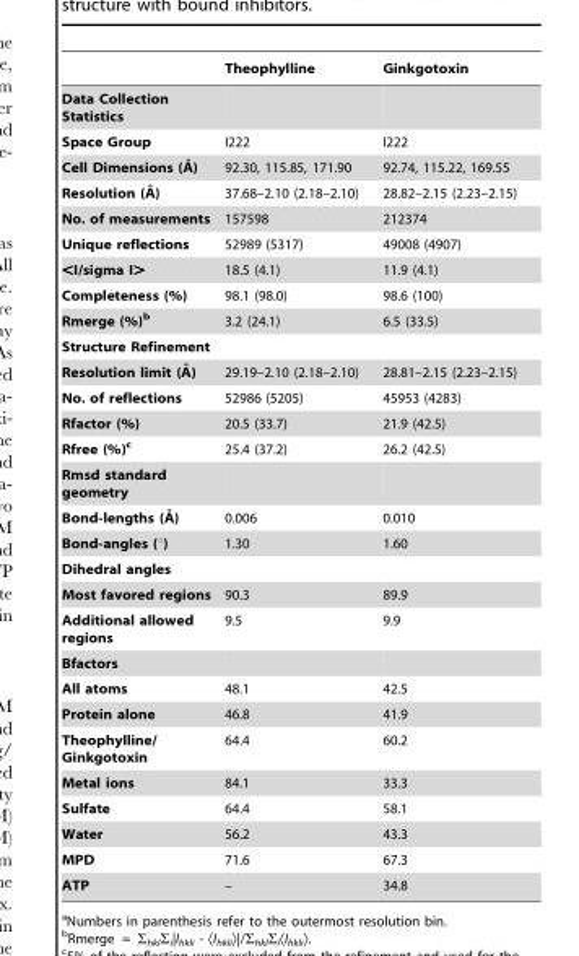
<table><thead><tr><td></td><td>Theophylline</td><td>Ginkgotoxin</td></tr></thead><tbody><tr><td colspan="3">Data Collection Statistics</td></tr><tr><td>Space Group</td><td>I222</td><td>I222</td></tr><tr><td>Cell Dimensions (A˚ )</td><td>92.30, 115.85, 171.90</td><td>92.74, 115.22, 169.55</td></tr><tr><td>Resolution (A˚ )</td><td>37.68–2.10 (2.18–2.10)</td><td>28.82–2.15 (2.23–2.15)</td></tr><tr><td>No. of measurements</td><td>157598</td><td>212374</td></tr><tr><td>Unique reflections</td><td>52989 (5317)</td><td>49008 (4907)</td></tr><tr><td>&lt;I/sigma I&gt;</td><td>18.5 (4.1)</td><td>11.9 (4.1)</td></tr><tr><td>Completeness (%)</td><td>98.1 (98.0)</td><td>98.6 (100)</td></tr><tr><td>Rmerge (%)b</td><td>3.2 (24.1)</td><td>6.5 (33.5)</td></tr><tr><td colspan="3">Structure Refinement</td></tr><tr><td>Resolution limit (A˚ )</td><td>29.19–2.10 (2.18–2.10)</td><td>28.81–2.15 (2.23–2.15)</td></tr><tr><td>No. of reflections</td><td>52986 (5205)</td><td>45953 (4283)</td></tr><tr><td>Rfactor (%)</td><td>20.5 (33.7)</td><td>21.9 (42.5)</td></tr><tr><td>Rfree (%)c</td><td>25.4 (37.2)</td><td>26.2 (42.5)</td></tr><tr><td colspan="3">Rmsd standard geometry</td></tr><tr><td>Bond-lengths (A˚ )</td><td>0.006</td><td>0.010</td></tr><tr><td>Bond-angles (°)</td><td>1.30</td><td>1.60</td></tr><tr><td colspan="3">Dihedral angles</td></tr><tr><td>Most favored regions</td><td>90.3</td><td>89.9</td></tr><tr><td>Additional allowed regions</td><td>9.5</td><td>9.9</td></tr><tr><td colspan="3">Bfactors</td></tr><tr><td>All atoms</td><td>48.1</td><td>42.5</td></tr><tr><td>Protein alone</td><td>46.8</td><td>41.9</td></tr><tr><td>Theophylline/ Ginkgotoxin</td><td>64.4</td><td>60.2</td></tr><tr><td>Metal ions</td><td>84.1</td><td>33.3</td></tr><tr><td>Sulfate</td><td>64.4</td><td>58.1</td></tr><tr><td>Water</td><td>56.2</td><td>43.3</td></tr><tr><td>MPD</td><td>71.6</td><td>67.3</td></tr><tr><td>ATP</td><td>–</td><td>34.8</td></tr></tbody></table>